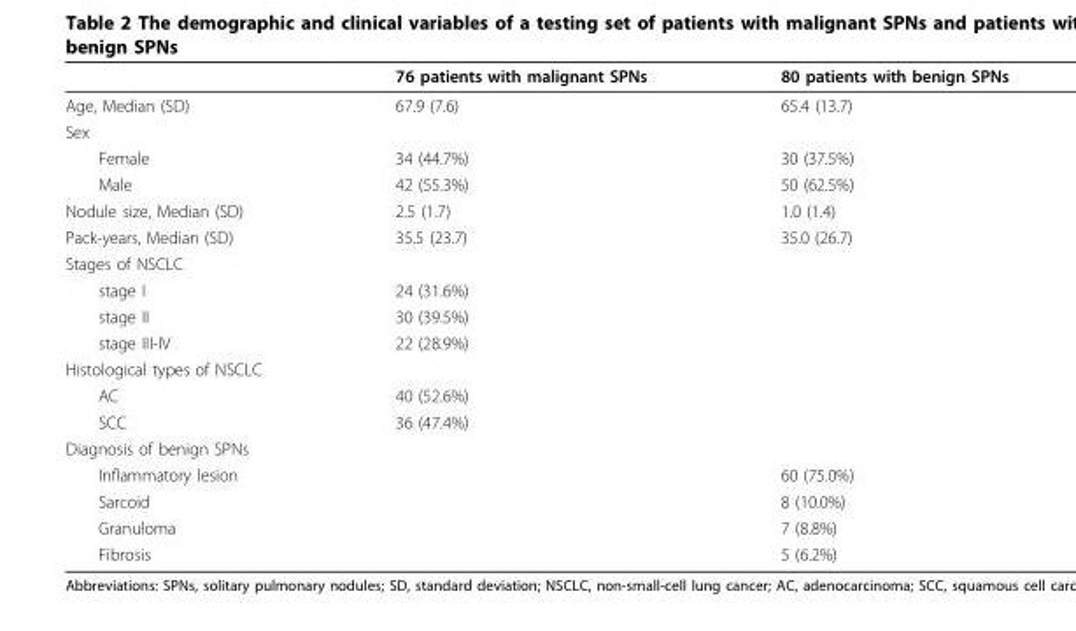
<table><thead><tr><td></td><td>76 patients with malignant SPNs</td><td>80 patients with benign SPNs</td></tr></thead><tbody><tr><td>Age, Median (SD)</td><td>67.9 (7.6)</td><td>65.4 (13.7)</td></tr><tr><td colspan="3">Sex</td></tr><tr><td>Female</td><td>34 (44.7%)</td><td>30 (37.5%)</td></tr><tr><td>Male</td><td>42 (55.3%)</td><td>50 (62.5%)</td></tr><tr><td>Nodule size, Median (SD)</td><td>2.5 (1.7)</td><td>1.0 (1.4)</td></tr><tr><td>Pack-years, Median (SD)</td><td>35.5 (23.7)</td><td>35.0 (26.7)</td></tr><tr><td colspan="3">Stages of NSCLC</td></tr><tr><td>stage I</td><td>24 (31.6%)</td><td></td></tr><tr><td>stage II</td><td>30 (39.5%)</td><td></td></tr><tr><td>stage III-IV</td><td>22 (28.9%)</td><td></td></tr><tr><td colspan="3">Histological types of NSCLC</td></tr><tr><td>AC</td><td>40 (52.6%)</td><td></td></tr><tr><td>SCC</td><td>36 (47.4%)</td><td></td></tr><tr><td colspan="3">Diagnosis of benign SPNs</td></tr><tr><td>Inflammatory lesion</td><td></td><td>60 (75.0%)</td></tr><tr><td>Sarcoid</td><td></td><td>8 (10.0%)</td></tr><tr><td>Granuloma</td><td></td><td>7 (8.8%)</td></tr><tr><td>Fibrosis</td><td></td><td>5 (6.2%)</td></tr></tbody></table>